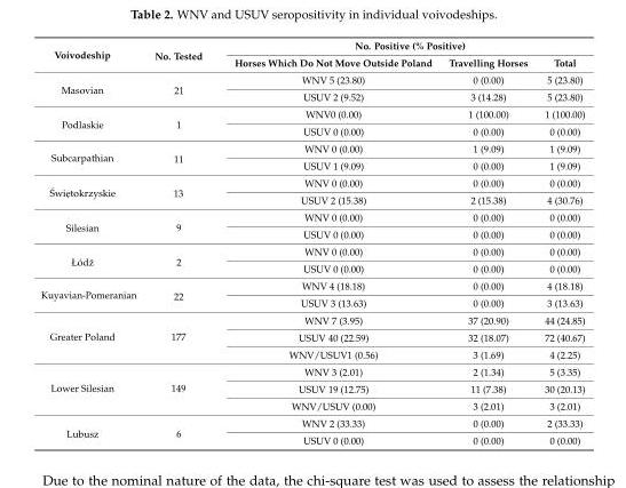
<table><thead><tr><td rowspan="2">Voivodeship</td><td rowspan="2">No. Tested</td><td colspan="3">No. Positive (% Positive)</td></tr><tr><td>Horses Which Do Not Move Outside Poland</td><td>Travelling Horses</td><td>Total</td></tr></thead><tbody><tr><td rowspan="2">Masovian</td><td rowspan="2">21</td><td>WNV 5 (23.80)</td><td>0 (0.00)</td><td>5 (23.80)</td></tr><tr><td>USUV 2 (9.52)</td><td>3 (14.28)</td><td>5 (23.80)</td></tr><tr><td rowspan="2">Podlaskie</td><td rowspan="2">1</td><td>WNV0 (0.00)</td><td>1 (100.00)</td><td>1 (100.00)</td></tr><tr><td>USUV 0 (0.00)</td><td>0 (0.00)</td><td>0 (0.00)</td></tr><tr><td rowspan="2">Subcarpathian</td><td rowspan="2">11</td><td>WNV 0 (0.00)</td><td>1 (9.09)</td><td>1 (9.09)</td></tr><tr><td>USUV 1 (9.09)</td><td>0 (0.00)</td><td>1 (9.09)</td></tr><tr><td rowspan="2">´Swi˛etokrzyskie</td><td rowspan="2">13</td><td>WNV 0 (0.00)</td><td>0 (0.00)</td><td>0 (0.00)</td></tr><tr><td>USUV 2 (15.38)</td><td>2 (15.38)</td><td>4 (30.76)</td></tr><tr><td rowspan="2">Silesian</td><td rowspan="2">9</td><td>WNV 0 (0.00)</td><td>0 (0.00)</td><td>0 (0.00)</td></tr><tr><td>USUV 0 (0.00)</td><td>0 (0.00)</td><td>0 (0.00)</td></tr><tr><td rowspan="2">Łód´z</td><td rowspan="2">2</td><td>WNV 0 (0.00)</td><td>0 (0.00)</td><td>0 (0.00)</td></tr><tr><td>USUV 0 (0.00)</td><td>0 (0.00)</td><td>0 (0.00)</td></tr><tr><td rowspan="2">Kuyavian-Pomeranian</td><td rowspan="2">22</td><td>WNV 4 (18.18)</td><td>0 (0.00)</td><td>4 (18.18)</td></tr><tr><td>USUV 3 (13.63)</td><td>0 (0.00)</td><td>3 (13.63)</td></tr><tr><td rowspan="3">Greater Poland</td><td rowspan="3">177</td><td>WNV 7 (3.95)</td><td>37 (20.90)</td><td>44 (24.85)</td></tr><tr><td>USUV 40 (22.59)</td><td>32 (18.07)</td><td>72 (40.67)</td></tr><tr><td>WNV/USUV1 (0.56)</td><td>3 (1.69)</td><td>4 (2.25)</td></tr><tr><td rowspan="3">Lower Silesian</td><td rowspan="3">149</td><td>WNV 3 (2.01)</td><td>2 (1.34)</td><td>5 (3.35)</td></tr><tr><td>USUV 19 (12.75)</td><td>11 (7.38)</td><td>30 (20.13)</td></tr><tr><td>WNV/USUV (0.00)</td><td>3 (2.01)</td><td>3 (2.01)</td></tr><tr><td rowspan="2">Lubusz</td><td rowspan="2">6</td><td>WNV 2 (33.33)</td><td>0 (0.00)</td><td>2 (33.33)</td></tr><tr><td>USUV 0 (0.00)</td><td>0 (0.00)</td><td>0 (0.00)</td></tr></tbody></table>